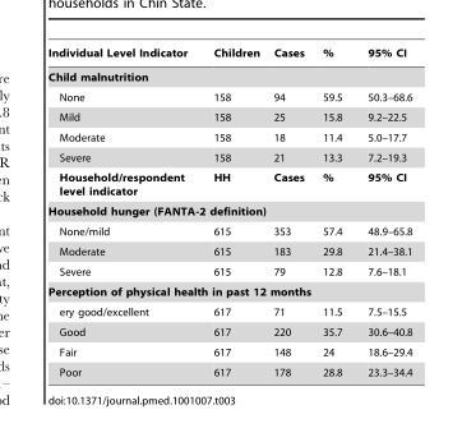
<table><thead><tr><td>Individual Level Indicator</td><td>Children</td><td>Cases</td><td>%</td><td>95% CI</td></tr></thead><tbody><tr><td colspan="5">Child malnutrition</td></tr><tr><td>None</td><td>158</td><td>94</td><td>59.5</td><td>50.3–68.6</td></tr><tr><td>Mild</td><td>158</td><td>25</td><td>15.8</td><td>9.2–22.5</td></tr><tr><td>Moderate</td><td>158</td><td>18</td><td>11.4</td><td>5.0–17.7</td></tr><tr><td>Severe</td><td>158</td><td>21</td><td>13.3</td><td>7.2–19.3</td></tr><tr><td>Household/respondent level indicator</td><td>HH</td><td>Cases</td><td>%</td><td>95% CI</td></tr><tr><td colspan="5">Household hunger (FANTA-2 definition)</td></tr><tr><td>None/mild</td><td>615</td><td>353</td><td>57.4</td><td>48.9–65.8</td></tr><tr><td>Moderate</td><td>615</td><td>183</td><td>29.8</td><td>21.4–38.1</td></tr><tr><td>Severe</td><td>615</td><td>79</td><td>12.8</td><td>7.6–18.1</td></tr><tr><td colspan="5">Perception of physical health in past 12 months</td></tr><tr><td>ery good/excellent</td><td>617</td><td>71</td><td>11.5</td><td>7.5–15.5</td></tr><tr><td>Good</td><td>617</td><td>220</td><td>35.7</td><td>30.6–40.8</td></tr><tr><td>Fair</td><td>617</td><td>148</td><td>24</td><td>18.6–29.4</td></tr><tr><td>Poor</td><td>617</td><td>178</td><td>28.8</td><td>23.3–34.4</td></tr></tbody></table>